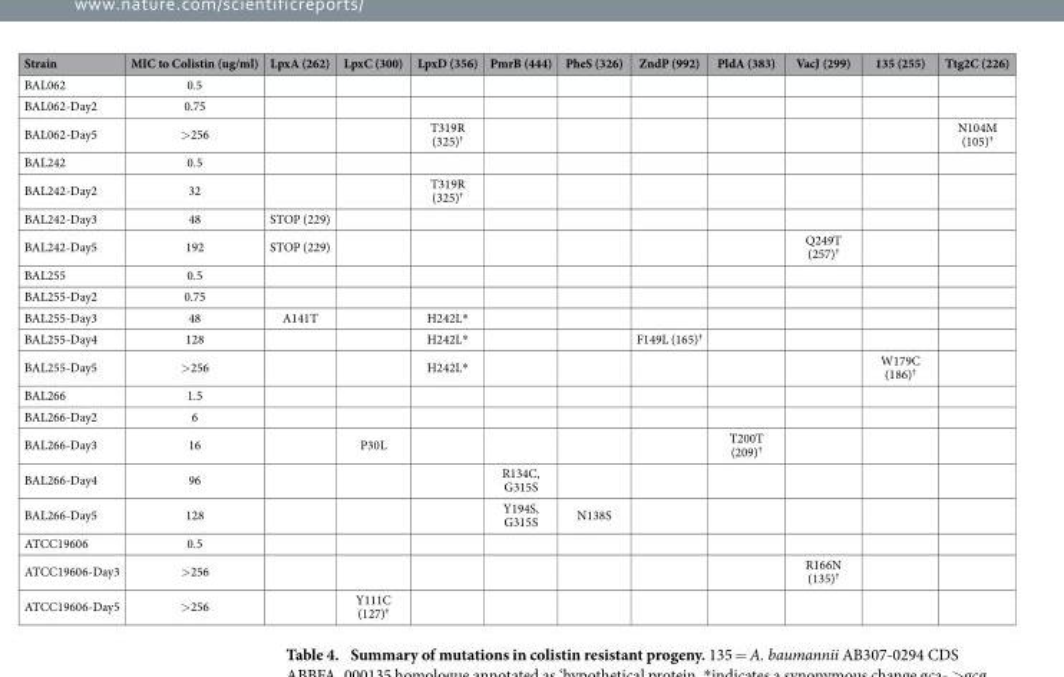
<table><thead><tr><td>Strain</td><td>MIC to Colistin (ug/ml)</td><td>LpxA (262)</td><td>LpxC (300)</td><td>LpxD (356)</td><td>PmrB (444)</td><td>PheS (326)</td><td>ZndP (992)</td><td>PldA (383)</td><td>VacJ (299)</td><td>135 (255)</td><td>Ttg2C (226)</td></tr></thead><tbody><tr><td>BAL062</td><td>0.5</td><td></td><td></td><td></td><td></td><td></td><td></td><td></td><td></td><td></td><td></td></tr><tr><td>BAL062-Day2</td><td>0.75</td><td></td><td></td><td></td><td></td><td></td><td></td><td></td><td></td><td></td><td></td></tr><tr><td>BAL062-Day5</td><td>&gt; 256</td><td></td><td></td><td>T319R (325)†</td><td></td><td></td><td></td><td></td><td></td><td></td><td>N104M (105)†</td></tr><tr><td>BAL242</td><td>0.5</td><td></td><td></td><td></td><td></td><td></td><td></td><td></td><td></td><td></td><td></td></tr><tr><td>BAL242-Day2</td><td>32</td><td></td><td></td><td>T319R (325)†</td><td></td><td></td><td></td><td></td><td></td><td></td><td></td></tr><tr><td>BAL242-Day3</td><td>48</td><td>STOP (229)</td><td></td><td></td><td></td><td></td><td></td><td></td><td></td><td></td><td></td></tr><tr><td>BAL242-Day5</td><td>192</td><td>STOP (229)</td><td></td><td></td><td></td><td></td><td></td><td></td><td>Q249T (257)†</td><td></td><td></td></tr><tr><td>BAL255</td><td>0.5</td><td></td><td></td><td></td><td></td><td></td><td></td><td></td><td></td><td></td><td></td></tr><tr><td>BAL255-Day2</td><td>0.75</td><td></td><td></td><td></td><td></td><td></td><td></td><td></td><td></td><td></td><td></td></tr><tr><td>BAL255-Day3</td><td>48</td><td>A141T</td><td></td><td>H242L*</td><td></td><td></td><td></td><td></td><td></td><td></td><td></td></tr><tr><td>BAL255-Day4</td><td>128</td><td></td><td></td><td>H242L*</td><td></td><td></td><td>F149L (165)†</td><td></td><td></td><td></td><td></td></tr><tr><td>BAL255-Day5</td><td>&gt; 256</td><td></td><td></td><td>H242L*</td><td></td><td></td><td></td><td></td><td></td><td>W179C (186)†</td><td></td></tr><tr><td>BAL266</td><td>1.5</td><td></td><td></td><td></td><td></td><td></td><td></td><td></td><td></td><td></td><td></td></tr><tr><td>BAL266-Day2</td><td>6</td><td></td><td></td><td></td><td></td><td></td><td></td><td></td><td></td><td></td><td></td></tr><tr><td>BAL266-Day3</td><td>16</td><td></td><td>P30L</td><td></td><td></td><td></td><td></td><td>T200T (209)†</td><td></td><td></td><td></td></tr><tr><td>BAL266-Day4</td><td>96</td><td></td><td></td><td></td><td>R134C, G315S</td><td></td><td></td><td></td><td></td><td></td><td></td></tr><tr><td>BAL266-Day5</td><td>128</td><td></td><td></td><td></td><td>Y194S, G315S</td><td>N138S</td><td></td><td></td><td></td><td></td><td></td></tr><tr><td>ATCC19606</td><td>0.5</td><td></td><td></td><td></td><td></td><td></td><td></td><td></td><td></td><td></td><td></td></tr><tr><td>ATCC19606-Day3</td><td>&gt; 256</td><td></td><td></td><td></td><td></td><td></td><td></td><td></td><td>R166N (135)†</td><td></td><td></td></tr><tr><td>ATCC19606-Day5</td><td>&gt; 256</td><td></td><td>Y111C (127)†</td><td></td><td></td><td></td><td></td><td></td><td></td><td></td><td></td></tr></tbody></table>